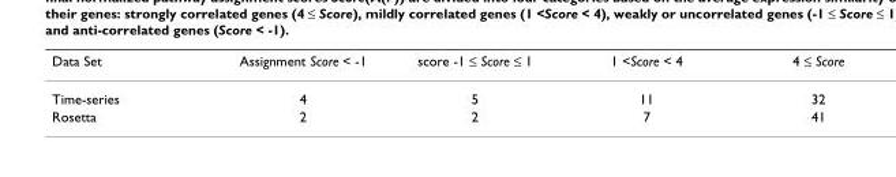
<table><thead><tr><td>Data Set</td><td>Assignment Score &lt; -1</td><td>score -1 ≤ Score ≤ 1</td><td>1 &lt;Score &lt; 4</td><td>4 ≤ Score</td></tr></thead><tbody><tr><td>Time-series</td><td>4</td><td>5</td><td>11</td><td>32</td></tr><tr><td>Rosetta</td><td>2</td><td>2</td><td>7</td><td>41</td></tr></tbody></table>